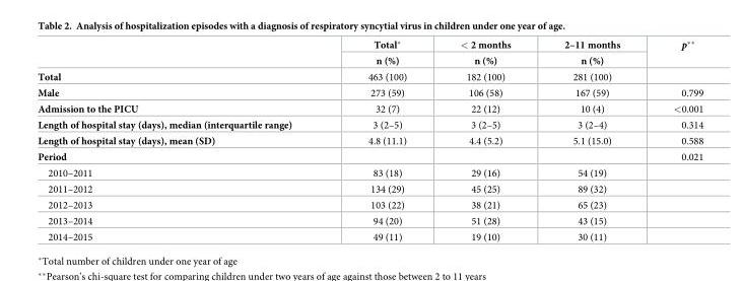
<table><thead><tr><td rowspan="2"></td><td rowspan="2">Total* n (%)</td><td rowspan="2">&lt; 2 months n (%)</td><td rowspan="2">2–11 months n (%)</td><td rowspan="2">p**</td></tr><tr></tr></thead><tbody><tr><td>Total</td><td>463 (100)</td><td>182 (100)</td><td>281 (100)</td><td></td></tr><tr><td>Male</td><td>273 (59)</td><td>106 (58)</td><td>167 (59)</td><td>0.799</td></tr><tr><td>Admission to the PICU</td><td>32 (7)</td><td>22 (12)</td><td>10 (4)</td><td>&lt;0.001</td></tr><tr><td>Length of hospital stay (days), median (interquartile range)</td><td>3 (2–5)</td><td>3 (2–5)</td><td>3 (2–4)</td><td>0.314</td></tr><tr><td>Length of hospital stay (days), mean (SD)</td><td>4.8 (11.1)</td><td>4.4 (5.2)</td><td>5.1 (15.0)</td><td>0.588</td></tr><tr><td>Period</td><td></td><td></td><td></td><td>0.021</td></tr><tr><td>2010–2011</td><td>83 (18)</td><td>29 (16)</td><td>54 (19)</td><td></td></tr><tr><td>2011–2012</td><td>134 (29)</td><td>45 (25)</td><td>89 (32)</td><td></td></tr><tr><td>2012–2013</td><td>103 (22)</td><td>38 (21)</td><td>65 (23)</td><td></td></tr><tr><td>2013–2014</td><td>94 (20)</td><td>51 (28)</td><td>43 (15)</td><td></td></tr><tr><td>2014–2015</td><td>49 (11)</td><td>19 (10)</td><td>30 (11)</td><td></td></tr></tbody></table>